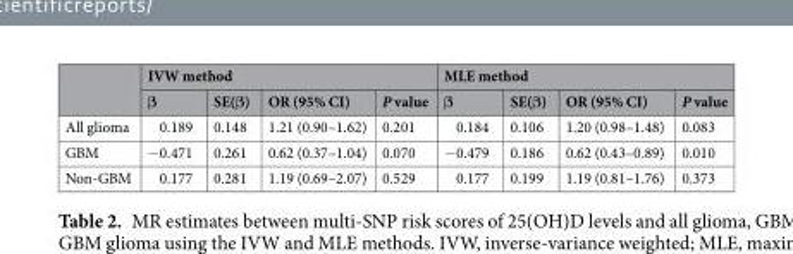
<table><thead><tr><td rowspan="2"></td><td colspan="4">IVW method</td><td colspan="4">MLE method</td></tr><tr><td>β</td><td>SE(β)</td><td>OR (95% CI)</td><td>P value</td><td>β</td><td>SE(β)</td><td>OR (95% CI)</td><td>P value</td></tr></thead><tbody><tr><td>All glioma</td><td>0.189</td><td>0.148</td><td>1.21 (0.90–1.62)</td><td>0.201</td><td>0.184</td><td>0.106</td><td>1.20 (0.98–1.48)</td><td>0.083</td></tr><tr><td>GBM</td><td>−0.471</td><td>0.261</td><td>0.62 (0.37–1.04)</td><td>0.070</td><td>−0.479</td><td>0.186</td><td>0.62 (0.43–0.89)</td><td>0.010</td></tr><tr><td>Non-GBM</td><td>0.177</td><td>0.281</td><td>1.19 (0.69–2.07)</td><td>0.529</td><td>0.177</td><td>0.199</td><td>1.19 (0.81–1.76)</td><td>0.373</td></tr></tbody></table>